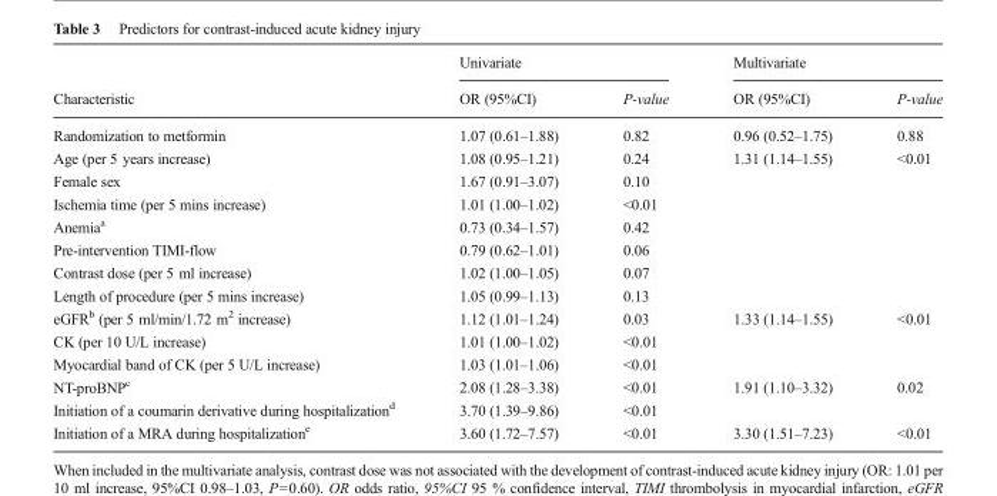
<table><thead><tr><td rowspan="2">Characteristic</td><td colspan="2">Univariate</td><td colspan="2">Multivariate</td></tr><tr><td>OR (95%CI)</td><td>P-value</td><td>OR (95%CI)</td><td>P-value</td></tr></thead><tbody><tr><td>Randomization to metformin</td><td>1.07 (0.61–1.88)</td><td>0.82</td><td>0.96 (0.52–1.75)</td><td>0.88</td></tr><tr><td>Age (per 5 years increase)</td><td>1.08 (0.95–1.21)</td><td>0.24</td><td>1.31 (1.14–1.55)</td><td>&lt;0.01</td></tr><tr><td>Female sex</td><td>1.67 (0.91–3.07)</td><td>0.10</td><td></td><td></td></tr><tr><td>Ischemia time (per 5 mins increase)</td><td>1.01 (1.00–1.02)</td><td>&lt;0.01</td><td></td><td></td></tr><tr><td>Anemia<sup>a</sup></td><td>0.73 (0.34–1.57)</td><td>0.42</td><td></td><td></td></tr><tr><td>Pre-intervention TIMI-flow</td><td>0.79 (0.62–1.01)</td><td>0.06</td><td></td><td></td></tr><tr><td>Contrast dose (per 5 ml increase)</td><td>1.02 (1.00–1.05)</td><td>0.07</td><td></td><td></td></tr><tr><td>Length of procedure (per 5 mins increase)</td><td>1.05 (0.99–1.13)</td><td>0.13</td><td></td><td></td></tr><tr><td>eGFR<sup>b</sup> (per 5 ml/min/1.72 m<sup>2</sup> increase)</td><td>1.12 (1.01–1.24)</td><td>0.03</td><td>1.33 (1.14–1.55)</td><td>&lt;0.01</td></tr><tr><td>CK (per 10 U/L increase)</td><td>1.01 (1.00–1.02)</td><td>&lt;0.01</td><td></td><td></td></tr><tr><td>Myocardial band of CK (per 5 U/L increase)</td><td>1.03 (1.01–1.06)</td><td>&lt;0.01</td><td></td><td></td></tr><tr><td>NT-proBNP<sup>c</sup></td><td>2.08 (1.28–3.38)</td><td>&lt;0.01</td><td>1.91 (1.10–3.32)</td><td>0.02</td></tr><tr><td>Initiation of a coumarin derivative during hospitalization<sup>d</sup></td><td>3.70 (1.39–9.86)</td><td>&lt;0.01</td><td></td><td></td></tr><tr><td>Initiation of a MRA during hospitalization<sup>e</sup></td><td>3.60 (1.72–7.57)</td><td>&lt;0.01</td><td>3.30 (1.51–7.23)</td><td>&lt;0.01</td></tr></tbody></table>